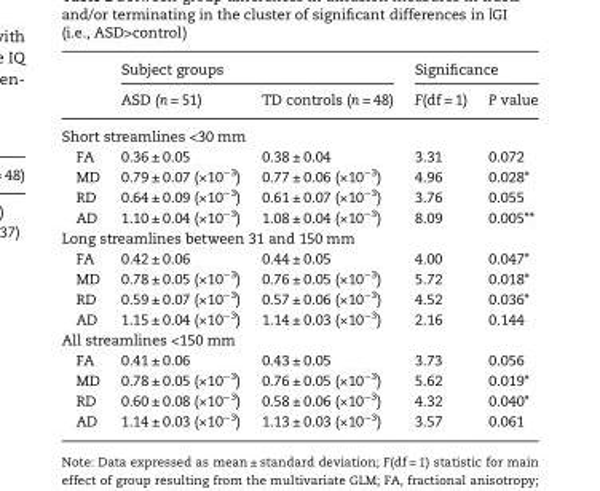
<table><thead><tr><td rowspan="2"></td><td colspan="2">Subject groups</td><td colspan="2">Significance</td></tr><tr><td>ASD (n = 51)</td><td>TD controls (n = 48)</td><td>F(df = 1)</td><td>P value</td></tr></thead><tbody><tr><td colspan="5">Short streamlines &lt;30 mm</td></tr><tr><td>FA</td><td>0.36 ± 0.05</td><td>0.38 ± 0.04</td><td>3.31</td><td>0.072</td></tr><tr><td>MD</td><td>0.79 ± 0.07 (×10<sup>−3</sup>)</td><td>0.77 ± 0.06 (×10<sup>−3</sup>)</td><td>4.96</td><td>0.028*</td></tr><tr><td>RD</td><td>0.64 ± 0.09 (×10<sup>−3</sup>)</td><td>0.61 ± 0.07 (×10<sup>−3</sup>)</td><td>3.76</td><td>0.055</td></tr><tr><td>AD</td><td>1.10 ± 0.04 (×10<sup>−3</sup>)</td><td>1.08 ± 0.04 (×10<sup>−3</sup>)</td><td>8.09</td><td>0.005**</td></tr><tr><td colspan="5">Long streamlines between 31 and 150 mm</td></tr><tr><td>FA</td><td>0.42 ± 0.06</td><td>0.44 ± 0.05</td><td>4.00</td><td>0.047*</td></tr><tr><td>MD</td><td>0.78 ± 0.05 (×10<sup>−3</sup>)</td><td>0.76 ± 0.05 (×10<sup>−3</sup>)</td><td>5.72</td><td>0.018*</td></tr><tr><td>RD</td><td>0.59 ± 0.07 (×10<sup>−3</sup>)</td><td>0.57 ± 0.06 (×10<sup>−3</sup>)</td><td>4.52</td><td>0.036*</td></tr><tr><td>AD</td><td>1.15 ± 0.04 (×10<sup>−3</sup>)</td><td>1.14 ± 0.03 (×10<sup>−3</sup>)</td><td>2.16</td><td>0.144</td></tr><tr><td colspan="5">All streamlines &lt;150 mm</td></tr><tr><td>FA</td><td>0.41 ± 0.06</td><td>0.43 ± 0.05</td><td>3.73</td><td>0.056</td></tr><tr><td>MD</td><td>0.78 ± 0.05 (×10<sup>−3</sup>)</td><td>0.76 ± 0.05 (×10<sup>−3</sup>)</td><td>5.62</td><td>0.019*</td></tr><tr><td>RD</td><td>0.60 ± 0.08 (×10<sup>−3</sup>)</td><td>0.58 ± 0.06 (×10<sup>−3</sup>)</td><td>4.32</td><td>0.040*</td></tr><tr><td>AD</td><td>1.14 ± 0.03 (×10<sup>−3</sup>)</td><td>1.13 ± 0.03 (×10<sup>−3</sup>)</td><td>3.57</td><td>0.061</td></tr></tbody></table>